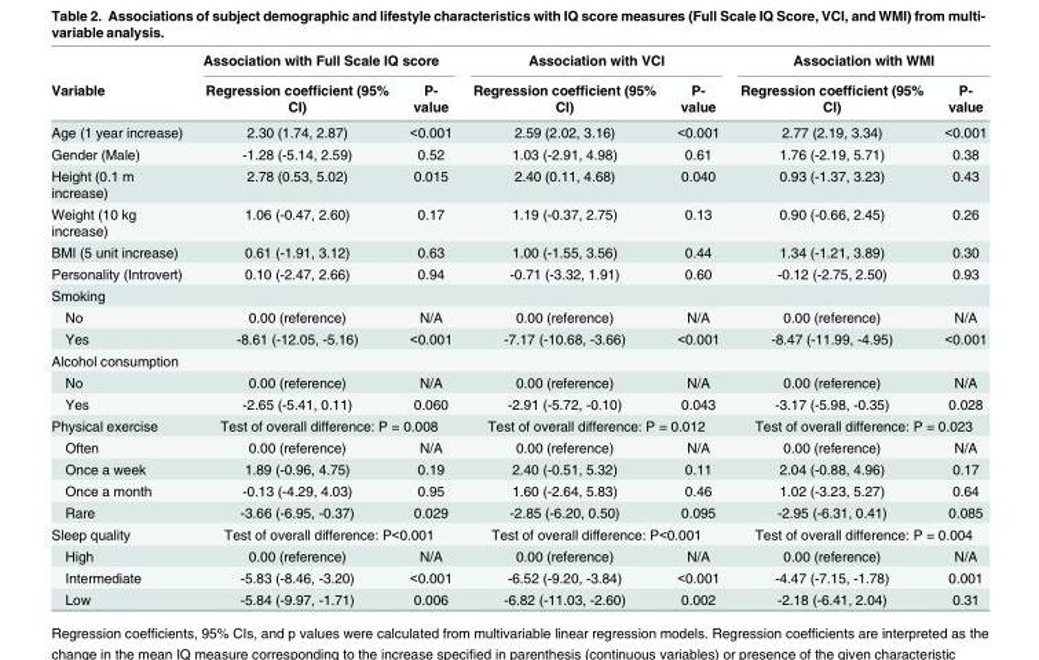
<table><thead><tr><td rowspan="2">Variable</td><td colspan="2">Association with Full Scale IQ score</td><td colspan="2">Association with VCI</td><td colspan="2">Association with WMI</td></tr><tr><td>Regression coefficient (95% CI)</td><td>P- value</td><td>Regression coefficient (95% CI)</td><td>P- value</td><td>Regression coefficient (95% CI)</td><td>P- value</td></tr></thead><tbody><tr><td>Age (1 year increase)</td><td>2.30 (1.74, 2.87)</td><td>&lt;0.001</td><td>2.59 (2.02, 3.16)</td><td>&lt;0.001</td><td>2.77 (2.19, 3.34)</td><td>&lt;0.001</td></tr><tr><td>Gender (Male)</td><td>-1.28 (-5.14, 2.59)</td><td>0.52</td><td>1.03 (-2.91, 4.98)</td><td>0.61</td><td>1.76 (-2.19, 5.71)</td><td>0.38</td></tr><tr><td>Height (0.1 m increase)</td><td>2.78 (0.53, 5.02)</td><td>0.015</td><td>2.40 (0.11, 4.68)</td><td>0.040</td><td>0.93 (-1.37, 3.23)</td><td>0.43</td></tr><tr><td>Weight (10 kg increase)</td><td>1.06 (-0.47, 2.60)</td><td>0.17</td><td>1.19 (-0.37, 2.75)</td><td>0.13</td><td>0.90 (-0.66, 2.45)</td><td>0.26</td></tr><tr><td>BMI (5 unit increase)</td><td>0.61 (-1.91, 3.12)</td><td>0.63</td><td>1.00 (-1.55, 3.56)</td><td>0.44</td><td>1.34 (-1.21, 3.89)</td><td>0.30</td></tr><tr><td>Personality (Introvert)</td><td>0.10 (-2.47, 2.66)</td><td>0.94</td><td>-0.71 (-3.32, 1.91)</td><td>0.60</td><td>-0.12 (-2.75, 2.50)</td><td>0.93</td></tr><tr><td colspan="7">Smoking</td></tr><tr><td>No</td><td>0.00 (reference)</td><td>N/A</td><td>0.00 (reference)</td><td>N/A</td><td>0.00 (reference)</td><td>N/A</td></tr><tr><td>Yes</td><td>-8.61 (-12.05, -5.16)</td><td>&lt;0.001</td><td>-7.17 (-10.68, -3.66)</td><td>&lt;0.001</td><td>-8.47 (-11.99, -4.95)</td><td>&lt;0.001</td></tr><tr><td colspan="7">Alcohol consumption</td></tr><tr><td>No</td><td>0.00 (reference)</td><td>N/A</td><td>0.00 (reference)</td><td>N/A</td><td>0.00 (reference)</td><td>N/A</td></tr><tr><td>Yes</td><td>-2.65 (-5.41, 0.11)</td><td>0.060</td><td>-2.91 (-5.72, -0.10)</td><td>0.043</td><td>-3.17 (-5.98, -0.35)</td><td>0.028</td></tr><tr><td>Physical exercise</td><td colspan="2">Test of overall difference: P = 0.008</td><td colspan="2">Test of overall difference: P = 0.012</td><td colspan="2">Test of overall difference: P = 0.023</td></tr><tr><td>Often</td><td>0.00 (reference)</td><td>N/A</td><td>0.00 (reference)</td><td>N/A</td><td>0.00 (reference)</td><td>N/A</td></tr><tr><td>Once a week</td><td>1.89 (-0.96, 4.75)</td><td>0.19</td><td>2.40 (-0.51, 5.32)</td><td>0.11</td><td>2.04 (-0.88, 4.96)</td><td>0.17</td></tr><tr><td>Once a month</td><td>-0.13 (-4.29, 4.03)</td><td>0.95</td><td>1.60 (-2.64, 5.83)</td><td>0.46</td><td>1.02 (-3.23, 5.27)</td><td>0.64</td></tr><tr><td>Rare</td><td>-3.66 (-6.95, -0.37)</td><td>0.029</td><td>-2.85 (-6.20, 0.50)</td><td>0.095</td><td>-2.95 (-6.31, 0.41)</td><td>0.085</td></tr><tr><td>Sleep quality</td><td colspan="2">Test of overall difference: P&lt;0.001</td><td colspan="2">Test of overall difference: P&lt;0.001</td><td colspan="2">Test of overall difference: P = 0.004</td></tr><tr><td>High</td><td>0.00 (reference)</td><td>N/A</td><td>0.00 (reference)</td><td>N/A</td><td>0.00 (reference)</td><td>N/A</td></tr><tr><td>Intermediate</td><td>-5.83 (-8.46, -3.20)</td><td>&lt;0.001</td><td>-6.52 (-9.20, -3.84)</td><td>&lt;0.001</td><td>-4.47 (-7.15, -1.78)</td><td>0.001</td></tr><tr><td>Low</td><td>-5.84 (-9.97, -1.71)</td><td>0.006</td><td>-6.82 (-11.03, -2.60)</td><td>0.002</td><td>-2.18 (-6.41, 2.04)</td><td>0.31</td></tr></tbody></table>